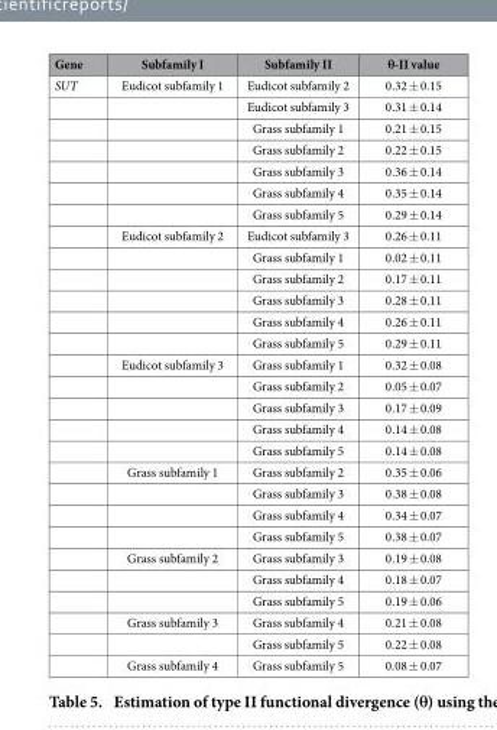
<table><thead><tr><td>Gene</td><td>Subfamily I</td><td>Subfamily II</td><td>θ-II value</td></tr></thead><tbody><tr><td rowspan="28">SUT</td><td>Eudicot subfamily 1</td><td>Eudicot subfamily 2</td><td>0.32 ± 0.15</td></tr><tr><td></td><td>Eudicot subfamily 3</td><td>0.31 ± 0.14</td></tr><tr><td></td><td>Grass subfamily 1</td><td>0.21 ± 0.15</td></tr><tr><td></td><td>Grass subfamily 2</td><td>0.22 ± 0.15</td></tr><tr><td></td><td>Grass subfamily 3</td><td>0.36 ± 0.14</td></tr><tr><td></td><td>Grass subfamily 4</td><td>0.35 ± 0.14</td></tr><tr><td></td><td>Grass subfamily 5</td><td>0.29 ± 0.14</td></tr><tr><td>Eudicot subfamily 2</td><td>Eudicot subfamily 3</td><td>0.26 ± 0.11</td></tr><tr><td></td><td>Grass subfamily 1</td><td>0.02 ± 0.11</td></tr><tr><td></td><td>Grass subfamily 2</td><td>0.17 ± 0.11</td></tr><tr><td></td><td>Grass subfamily 3</td><td>0.28 ± 0.11</td></tr><tr><td></td><td>Grass subfamily 4</td><td>0.26 ± 0.11</td></tr><tr><td></td><td>Grass subfamily 5</td><td>0.29 ± 0.11</td></tr><tr><td>Eudicot subfamily 3</td><td>Grass subfamily 1</td><td>0.32 ± 0.08</td></tr><tr><td></td><td>Grass subfamily 2</td><td>0.05 ± 0.07</td></tr><tr><td></td><td>Grass subfamily 3</td><td>0.17 ± 0.09</td></tr><tr><td></td><td>Grass subfamily 4</td><td>0.14 ± 0.08</td></tr><tr><td></td><td>Grass subfamily 5</td><td>0.14 ± 0.08</td></tr><tr><td>Grass subfamily 1</td><td>Grass subfamily 2</td><td>0.35 ± 0.06</td></tr><tr><td></td><td>Grass subfamily 3</td><td>0.38 ± 0.08</td></tr><tr><td></td><td>Grass subfamily 4</td><td>0.34 ± 0.07</td></tr><tr><td></td><td>Grass subfamily 5</td><td>0.38 ± 0.07</td></tr><tr><td>Grass subfamily 2</td><td>Grass subfamily 3</td><td>0.19 ± 0.08</td></tr><tr><td></td><td>Grass subfamily 4</td><td>0.18 ± 0.07</td></tr><tr><td></td><td>Grass subfamily 5</td><td>0.19 ± 0.06</td></tr><tr><td>Grass subfamily 3</td><td>Grass subfamily 4</td><td>0.21 ± 0.08</td></tr><tr><td></td><td>Grass subfamily 5</td><td>0.22 ± 0.08</td></tr><tr><td>Grass subfamily 4</td><td>Grass subfamily 5</td><td>0.08 ± 0.07</td></tr></tbody></table>